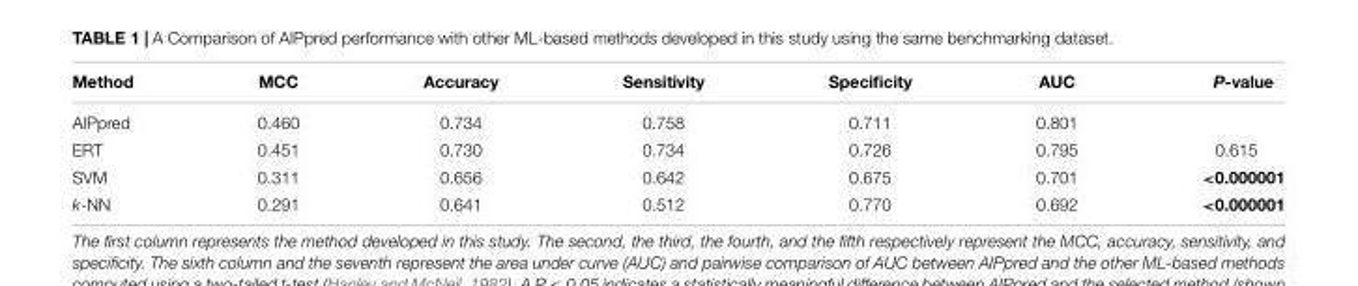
<table><thead><tr><td>Method</td><td>MCC</td><td>Accuracy</td><td>Sensitivity</td><td>Specificity</td><td>AUC</td><td>P-value</td></tr></thead><tbody><tr><td>AIPpred</td><td>0.460</td><td>0.734</td><td>0.758</td><td>0.711</td><td>0.801</td><td></td></tr><tr><td>ERT</td><td>0.451</td><td>0.730</td><td>0.734</td><td>0.726</td><td>0.795</td><td>0.615</td></tr><tr><td>SVM</td><td>0.311</td><td>0.656</td><td>0.642</td><td>0.675</td><td>0.701</td><td>&lt;0.000001</td></tr><tr><td>k-NN</td><td>0.291</td><td>0.641</td><td>0.512</td><td>0.770</td><td>0.692</td><td>&lt;0.000001</td></tr></tbody></table>